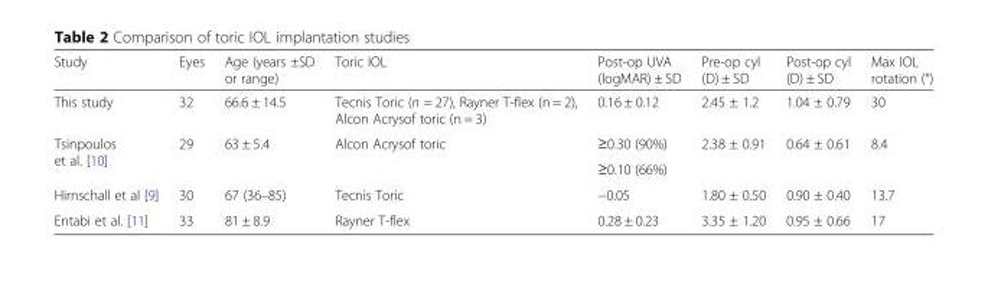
<table><thead><tr><td>Study</td><td>Eyes</td><td>Age (years ±SD or range)</td><td>Toric IOL</td><td>Post-op UVA (logMAR) ± SD</td><td>Pre-op cyl (D) ± SD</td><td>Post-op cyl (D) ± SD</td><td>Max IOL rotation (°)</td></tr></thead><tbody><tr><td>This study</td><td>32</td><td>66.6 ± 14.5</td><td>Tecnis Toric (n = 27), Rayner T-flex (n = 2), Alcon Acrysof toric (n = 3)</td><td>0.16 ± 0.12</td><td>2.45 ± 1.2</td><td>1.04 ± 0.79</td><td>30</td></tr><tr><td rowspan="2">Tsinpoulos et al. [10]</td><td rowspan="2">29</td><td rowspan="2">63 ± 5.4</td><td rowspan="2">Alcon Acrysof toric</td><td>≥0.30 (90%)</td><td rowspan="2">2.38 ± 0.91</td><td rowspan="2">0.64 ± 0.61</td><td rowspan="2">8.4</td></tr><tr><td>≥0.10 (66%)</td></tr><tr><td>Hirnschall et al [9]</td><td>30</td><td>67 (36–85)</td><td>Tecnis Toric</td><td>−0.05</td><td>1.80 ± 0.50</td><td>0.90 ± 0.40</td><td>13.7</td></tr><tr><td>Entabi et al. [11]</td><td>33</td><td>81 ± 8.9</td><td>Rayner T-flex</td><td>0.28 ± 0.23</td><td>3.35 ± 1.20</td><td>0.95 ± 0.66</td><td>17</td></tr></tbody></table>